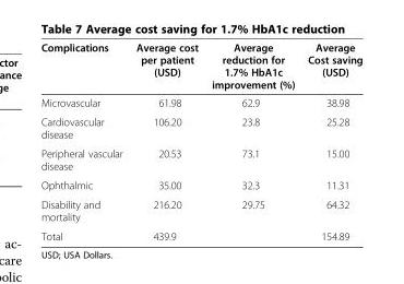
<table><thead><tr><td>Complications</td><td>Average cost per patient (USD)</td><td>Average reduction for 1.7% HbA1c improvement (%)</td><td>Average Cost saving (USD)</td></tr></thead><tbody><tr><td>Microvascular</td><td>61.98</td><td>62.9</td><td>38.98</td></tr><tr><td>Cardiovascular disease</td><td>106.20</td><td>23.8</td><td>25.28</td></tr><tr><td>Peripheral vascular disease</td><td>20.53</td><td>73.1</td><td>15.00</td></tr><tr><td>Ophthalmic</td><td>35.00</td><td>32.3</td><td>11.31</td></tr><tr><td>Disability and mortality</td><td>216.20</td><td>29.75</td><td>64.32</td></tr><tr><td>Total</td><td>439.9</td><td></td><td>154.89</td></tr></tbody></table>